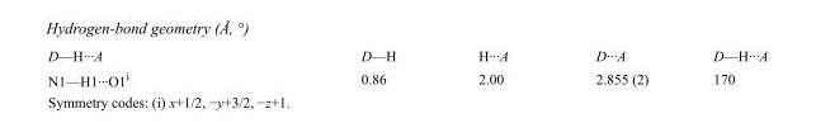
<table><tbody><tr><td>D—H···A</td><td>D—H</td><td>H···A</td><td>D···A</td><td>D—H···A</td></tr><tr><td>N1—H1···O1<sup>i</sup></td><td>0.86</td><td>2.00</td><td>2.855 (2)</td><td>170</td></tr></tbody></table>